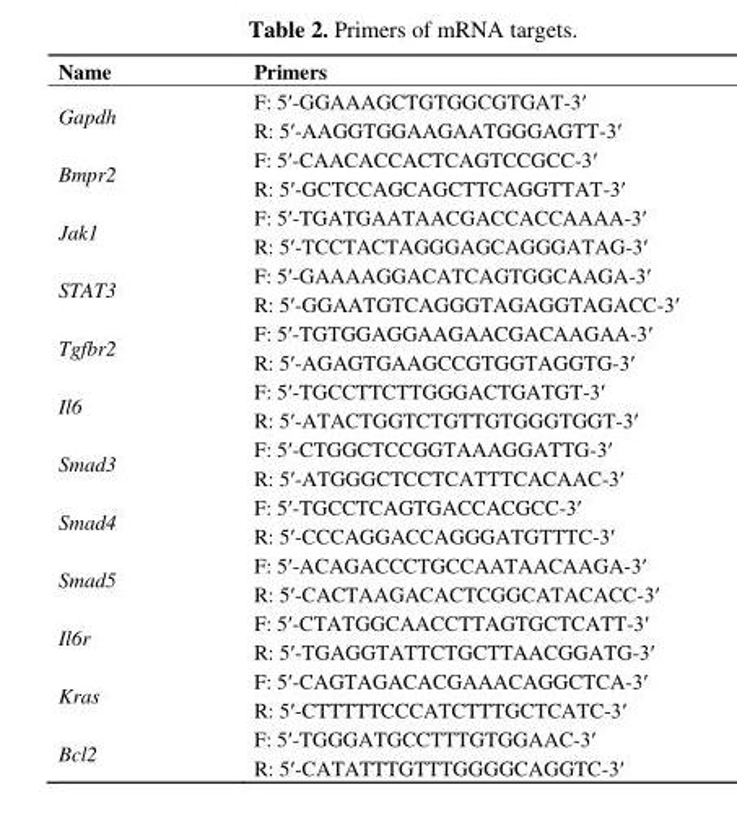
<table><thead><tr><td>Name</td><td>Primers</td></tr></thead><tbody><tr><td>Gapdh</td><td>F: 5′-GGAAAGCTGTGGCGTGAT-3′ R: 5′-AAGGTGGAAGAATGGGAGTT-3′</td></tr><tr><td>Bmpr2</td><td>F: 5′-CAACACCACTCAGTCCGCC-3′ R: 5′-GCTCCAGCAGCTTCAGGTTAT-3′</td></tr><tr><td>Jak1</td><td>F: 5′-TGATGAATAACGACCACCAAAA-3′ R: 5′-TCCTACTAGGGAGCAGGGATAG-3′</td></tr><tr><td>STAT3</td><td>F: 5′-GAAAAGGACATCAGTGGCAAGA-3′ R: 5′-GGAATGTCAGGGTAGAGGTAGACC-3′</td></tr><tr><td>Tgfbr2</td><td>F: 5′-TGTGGAGGAAGAACGACAAGAA-3′ R: 5′-AGAGTGAAGCCGTGGTAGGTG-3′</td></tr><tr><td>Il6</td><td>F: 5′-TGCCTTCTTGGGACTGATGT-3′ R: 5′-ATACTGGTCTGTTGTGGGTGGT-3′</td></tr><tr><td>Smad3</td><td>F: 5′-CTGGCTCCGGTAAAGGATTG-3′ R: 5′-ATGGGCTCCTCATTTCACAAC-3′</td></tr><tr><td>Smad4</td><td>F: 5′-TGCCTCAGTGACCACGCC-3′ R: 5′-CCCAGGACCAGGGATGTTTC-3′</td></tr><tr><td>Smad5</td><td>F: 5′-ACAGACCCTGCCAATAACAAGA-3′ R: 5′-CACTAAGACACTCGGCATACACC-3′</td></tr><tr><td>Il6r</td><td>F: 5′-CTATGGCAACCTTAGTGCTCATT-3′ R: 5′-TGAGGTATTCTGCTTAACGGATG-3′</td></tr><tr><td>Kras</td><td>F: 5′-CAGTAGACACGAAACAGGCTCA-3′ R: 5′-CTTTTTCCCATCTTTGCTCATC-3′</td></tr><tr><td>Bcl2</td><td>F: 5′-TGGGATGCCTTTGTGGAAC-3′ R: 5′-CATATTTGTTTGGGGCAGGTC-3′</td></tr></tbody></table>